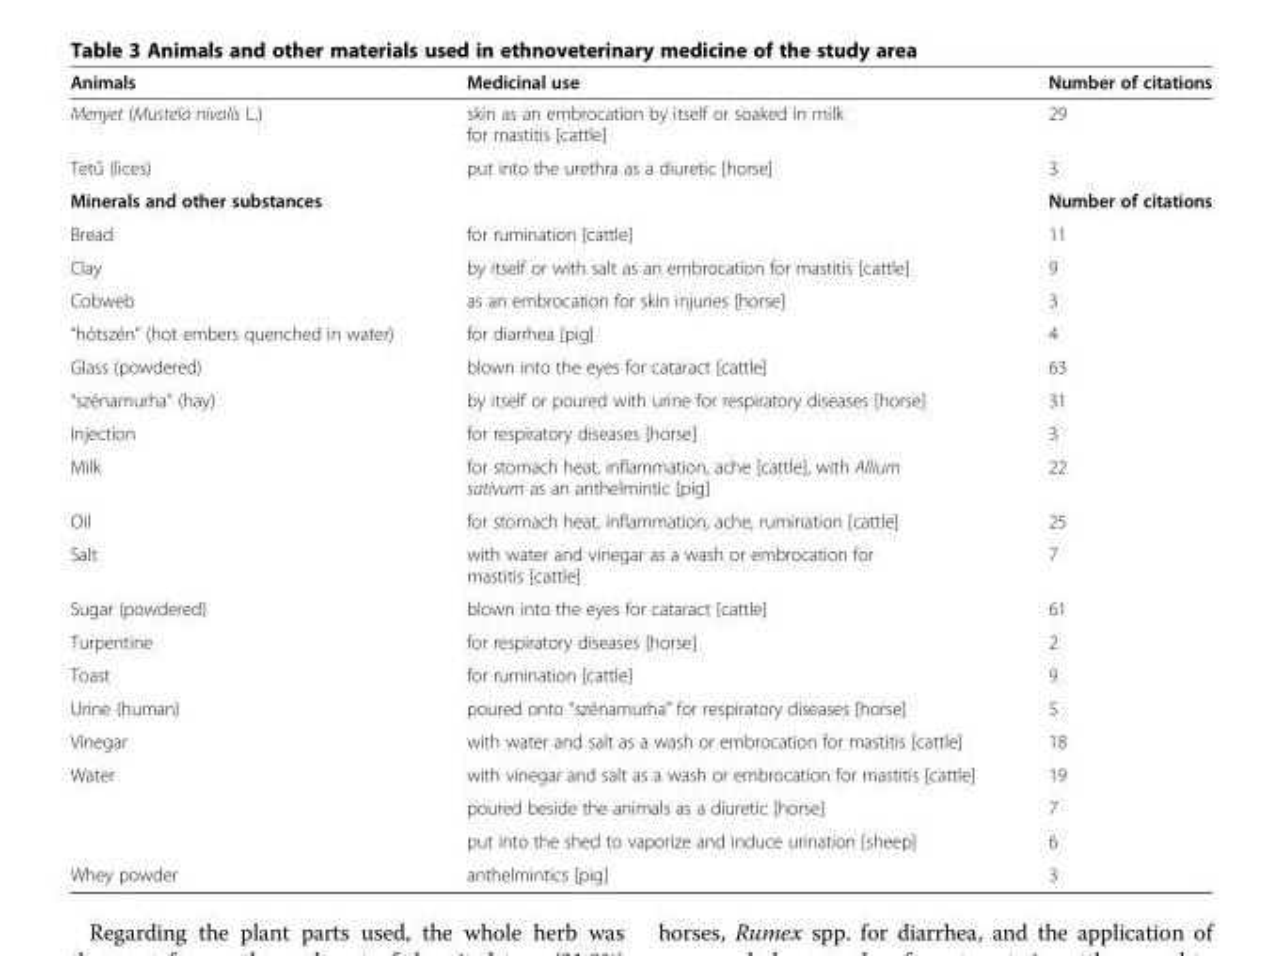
<table><thead><tr><td>Animals</td><td>Medicinal use</td><td>Number of citations</td></tr></thead><tbody><tr><td>Menyet (Mustela nivalis L.)</td><td>skin as an embrocation by itself or soaked in milk for mastitis [cattle]</td><td>29</td></tr><tr><td>Tetű (lices)</td><td>put into the urethra as a diuretic [horse]</td><td>3</td></tr><tr><td>Minerals and other substances</td><td></td><td>Number of citations</td></tr><tr><td>Bread</td><td>for rumination [cattle]</td><td>11</td></tr><tr><td>Clay</td><td>by itself or with salt as an embrocation for mastitis [cattle]</td><td>9</td></tr><tr><td>Cobweb</td><td>as an embrocation for skin injuries [horse]</td><td>3</td></tr><tr><td>“hótszén” (hot embers quenched in water)</td><td>for diarrhea [pig]</td><td>4</td></tr><tr><td>Glass (powdered)</td><td>blown into the eyes for cataract [cattle]</td><td>63</td></tr><tr><td>“szénamurha” (hay)</td><td>by itself or poured with urine for respiratory diseases [horse]</td><td>31</td></tr><tr><td>Injection</td><td>for respiratory diseases [horse]</td><td>3</td></tr><tr><td>Milk</td><td>for stomach heat, inflammation, ache [cattle], with Allium sativum as an anthelmintic [pig]</td><td>22</td></tr><tr><td>Oil</td><td>for stomach heat, inflammation, ache, rumination [cattle]</td><td>25</td></tr><tr><td>Salt</td><td>with water and vinegar as a wash or embrocation for mastitis [cattle]</td><td>7</td></tr><tr><td>Sugar (powdered)</td><td>blown into the eyes for cataract [cattle]</td><td>61</td></tr><tr><td>Turpentine</td><td>for respiratory diseases [horse]</td><td>2</td></tr><tr><td>Toast</td><td>for rumination [cattle]</td><td>9</td></tr><tr><td>Urine (human)</td><td>poured onto “szénamurha” for respiratory diseases [horse]</td><td>5</td></tr><tr><td>Vinegar</td><td>with water and salt as a wash or embrocation for mastitis [cattle]</td><td>18</td></tr><tr><td rowspan="3">Water</td><td>with vinegar and salt as a wash or embrocation for mastitis [cattle]</td><td>19</td></tr><tr><td>poured beside the animals as a diuretic [horse]</td><td>7</td></tr><tr><td>put into the shed to vaporize and induce urination [sheep]</td><td>6</td></tr><tr><td>Whey powder</td><td>anthelmintics [pig]</td><td>3</td></tr></tbody></table>